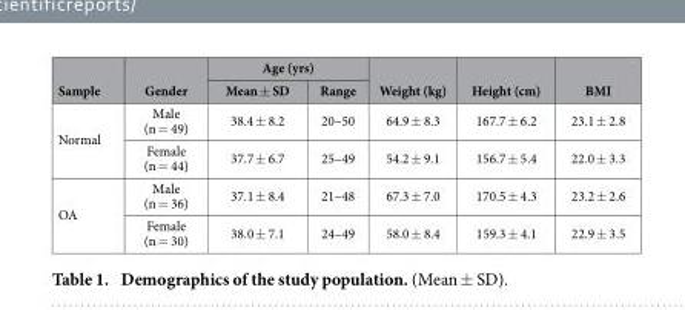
<table><thead><tr><td rowspan="2">Sample</td><td rowspan="2">Gender</td><td colspan="2">Age (yrs)</td><td rowspan="2">Weight (kg)</td><td rowspan="2">Height (cm)</td><td rowspan="2">BMI</td></tr><tr><td>Mean ± SD</td><td>Range</td></tr></thead><tbody><tr><td rowspan="2">Normal</td><td>Male (n = 49)</td><td>38.4 ± 8.2</td><td>20–50</td><td>64.9 ± 8.3</td><td>167.7 ± 6.2</td><td>23.1 ± 2.8</td></tr><tr><td>Female (n = 44)</td><td>37.7 ± 6.7</td><td>25–49</td><td>54.2 ± 9.1</td><td>156.7 ± 5.4</td><td>22.0 ± 3.3</td></tr><tr><td rowspan="2">OA</td><td>Male (n = 36)</td><td>37.1 ± 8.4</td><td>21–48</td><td>67.3 ± 7.0</td><td>170.5 ± 4.3</td><td>23.2 ± 2.6</td></tr><tr><td>Female (n = 30)</td><td>38.0 ± 7.1</td><td>24–49</td><td>58.0 ± 8.4</td><td>159.3 ± 4.1</td><td>22.9 ± 3.5</td></tr></tbody></table>